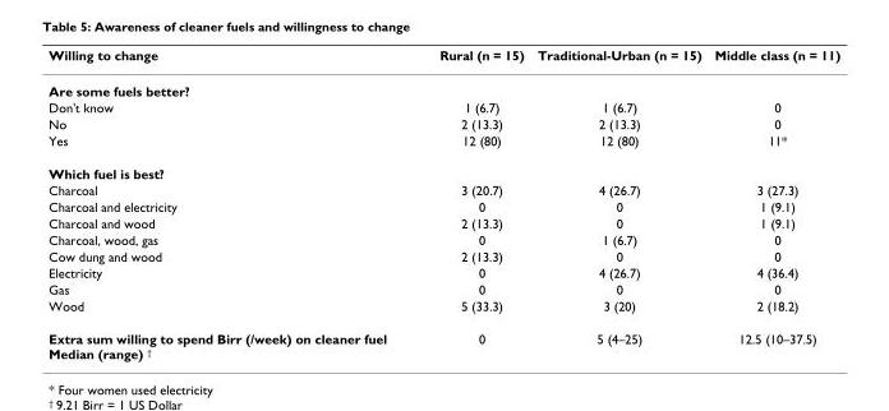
<table><thead><tr><td>Willing to change</td><td>Rural (n = 15)</td><td>Traditional-Urban (n = 15)</td><td>Middle class (n = 11)</td></tr></thead><tbody><tr><td colspan="4">Are some fuels better?</td></tr><tr><td>Don&#x27;t know</td><td>1 (6.7)</td><td>1 (6.7)</td><td>0</td></tr><tr><td>No</td><td>2 (13.3)</td><td>2 (13.3)</td><td>0</td></tr><tr><td>Yes</td><td>12 (80)</td><td>12 (80)</td><td>11*</td></tr><tr><td colspan="4">Which fuel is best?</td></tr><tr><td>Charcoal</td><td>3 (20.7)</td><td>4 (26.7)</td><td>3 (27.3)</td></tr><tr><td>Charcoal and electricity</td><td>0</td><td>0</td><td>1 (9.1)</td></tr><tr><td>Charcoal and wood</td><td>2 (13.3)</td><td>0</td><td>1 (9.1)</td></tr><tr><td>Charcoal, wood, gas</td><td>0</td><td>1 (6.7)</td><td>0</td></tr><tr><td>Cow dung and wood</td><td>2 (13.3)</td><td>0</td><td>0</td></tr><tr><td>Electricity</td><td>0</td><td>4 (26.7)</td><td>4 (36.4)</td></tr><tr><td>Gas</td><td>0</td><td>0</td><td>0</td></tr><tr><td>Wood</td><td>5 (33.3)</td><td>3 (20)</td><td>2 (18.2)</td></tr><tr><td>Extra sum willing to spend Birr (/week) on cleaner fuel Median (range) <sup>†</sup></td><td>0</td><td>5 (4–25)</td><td>12.5 (10–37.5)</td></tr></tbody></table>